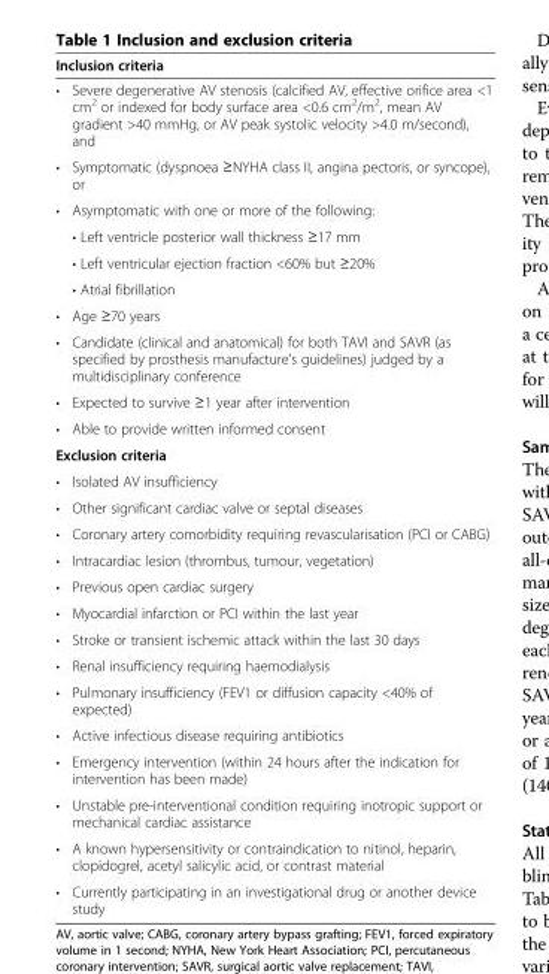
<table><thead><tr><td colspan="2">Inclusion criteria</td></tr><tr><td>•</td><td>Severe degenerative AV stenosis (calcified AV, effective orifice area &lt;1 cm<sup>2</sup> or indexed for body surface area &lt;0.6 cm<sup>2</sup>/m<sup>2</sup>, mean AV gradient &gt;40 mmHg, or AV peak systolic velocity &gt;4.0 m/second), and</td></tr></thead><tbody><tr><td>•</td><td>Symptomatic (dyspnoea ≥NYHA class II, angina pectoris, or syncope), or</td></tr><tr><td rowspan="4">•</td><td>Asymptomatic with one or more of the following:</td></tr><tr><td>• Left ventricle posterior wall thickness ≥17 mm</td></tr><tr><td>• Left ventricular ejection fraction &lt;60% but ≥20%</td></tr><tr><td>• Atrial fibrillation</td></tr><tr><td>•</td><td>Age ≥70 years</td></tr><tr><td>•</td><td>Candidate (clinical and anatomical) for both TAVI and SAVR (as specified by prosthesis manufacture’s guidelines) judged by a multidisciplinary conference</td></tr><tr><td>•</td><td>Expected to survive ≥1 year after intervention</td></tr><tr><td>•</td><td>Able to provide written informed consent</td></tr><tr><td colspan="2">Exclusion criteria</td></tr><tr><td>•</td><td>Isolated AV insufficiency</td></tr><tr><td>•</td><td>Other significant cardiac valve or septal diseases</td></tr><tr><td>•</td><td>Coronary artery comorbidity requiring revascularisation (PCI or CABG)</td></tr><tr><td>•</td><td>Intracardiac lesion (thrombus, tumour, vegetation)</td></tr><tr><td>•</td><td>Previous open cardiac surgery</td></tr><tr><td>•</td><td>Myocardial infarction or PCI within the last year</td></tr><tr><td>•</td><td>Stroke or transient ischemic attack within the last 30 days</td></tr><tr><td>•</td><td>Renal insufficiency requiring haemodialysis</td></tr><tr><td>•</td><td>Pulmonary insufficiency (FEV1 or diffusion capacity &lt;40% of expected)</td></tr><tr><td>•</td><td>Active infectious disease requiring antibiotics</td></tr><tr><td>•</td><td>Emergency intervention (within 24 hours after the indication for intervention has been made)</td></tr><tr><td>•</td><td>Unstable pre-interventional condition requiring inotropic support or mechanical cardiac assistance</td></tr><tr><td>•</td><td>A known hypersensitivity or contraindication to nitinol, heparin, clopidogrel, acetyl salicylic acid, or contrast material</td></tr><tr><td>•</td><td>Currently participating in an investigational drug or another device study</td></tr></tbody></table>